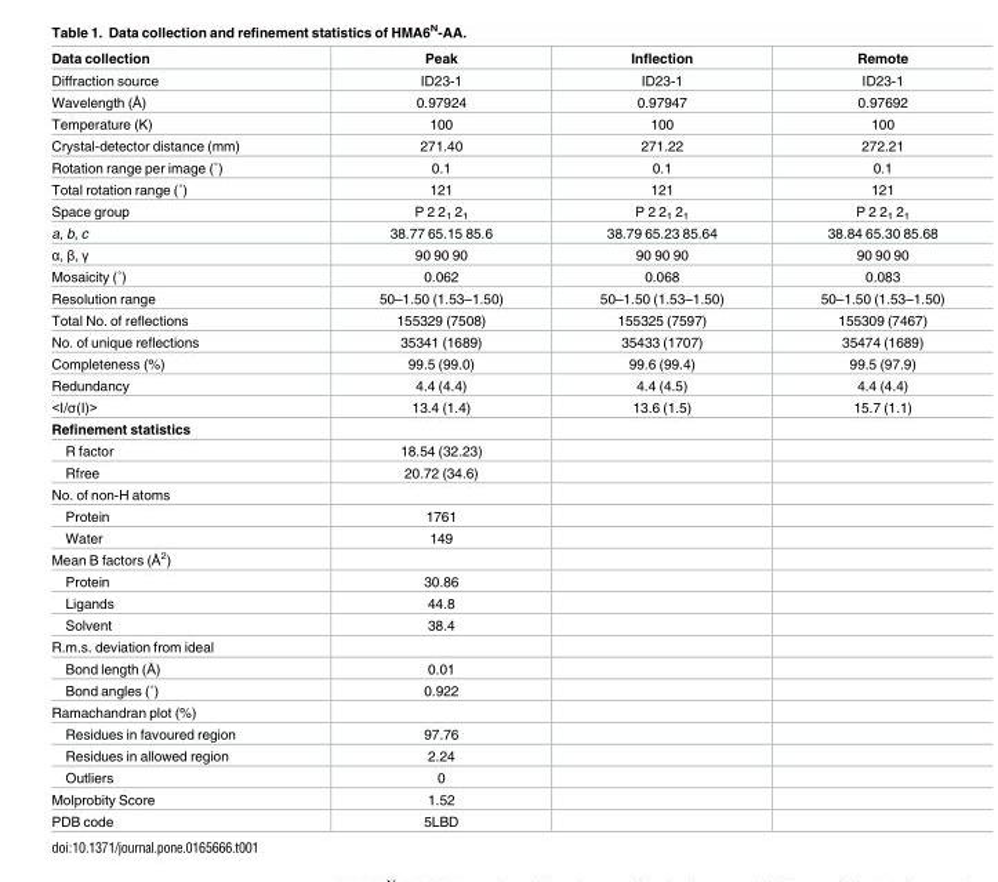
<table><thead><tr><td>Data collection</td><td>Peak</td><td>Inflection</td><td>Remote</td></tr></thead><tbody><tr><td>Diffraction source</td><td>ID23-1</td><td>ID23-1</td><td>ID23-1</td></tr><tr><td>Wavelength (Å)</td><td>0.97924</td><td>0.97947</td><td>0.97692</td></tr><tr><td>Temperature (K)</td><td>100</td><td>100</td><td>100</td></tr><tr><td>Crystal-detector distance (mm)</td><td>271.40</td><td>271.22</td><td>272.21</td></tr><tr><td>Rotation range per image (˚)</td><td>0.1</td><td>0.1</td><td>0.1</td></tr><tr><td>Total rotation range (˚)</td><td>121</td><td>121</td><td>121</td></tr><tr><td>Space group</td><td>P 2 2<sub>1</sub> 2<sub>1</sub></td><td>P 2 2<sub>1</sub> 2<sub>1</sub></td><td>P 2 2<sub>1</sub> 2<sub>1</sub></td></tr><tr><td>a, b, c</td><td>38.77 65.15 85.6</td><td>38.79 65.23 85.64</td><td>38.84 65.30 85.68</td></tr><tr><td>α, β, γ</td><td>90 90 90</td><td>90 90 90</td><td>90 90 90</td></tr><tr><td>Mosaicity (˚)</td><td>0.062</td><td>0.068</td><td>0.083</td></tr><tr><td>Resolution range</td><td>50–1.50 (1.53–1.50)</td><td>50–1.50 (1.53–1.50)</td><td>50–1.50 (1.53–1.50)</td></tr><tr><td>Total No. of reflections</td><td>155329 (7508)</td><td>155325 (7597)</td><td>155309 (7467)</td></tr><tr><td>No. of unique reflections</td><td>35341 (1689)</td><td>35433 (1707)</td><td>35474 (1689)</td></tr><tr><td>Completeness (%)</td><td>99.5 (99.0)</td><td>99.6 (99.4)</td><td>99.5 (97.9)</td></tr><tr><td>Redundancy</td><td>4.4 (4.4)</td><td>4.4 (4.5)</td><td>4.4 (4.4)</td></tr><tr><td>&lt;I/σ(I)&gt;</td><td>13.4 (1.4)</td><td>13.6 (1.5)</td><td>15.7 (1.1)</td></tr><tr><td colspan="4">Refinement statistics</td></tr><tr><td>R factor</td><td>18.54 (32.23)</td><td></td><td></td></tr><tr><td>Rfree</td><td>20.72 (34.6)</td><td></td><td></td></tr><tr><td colspan="4">No. of non-H atoms</td></tr><tr><td>Protein</td><td>1761</td><td></td><td></td></tr><tr><td>Water</td><td>149</td><td></td><td></td></tr><tr><td colspan="4">Mean B factors (Å<sup>2</sup>)</td></tr><tr><td>Protein</td><td>30.86</td><td></td><td></td></tr><tr><td>Ligands</td><td>44.8</td><td></td><td></td></tr><tr><td>Solvent</td><td>38.4</td><td></td><td></td></tr><tr><td colspan="4">R.m.s. deviation from ideal</td></tr><tr><td>Bond length (Å)</td><td>0.01</td><td></td><td></td></tr><tr><td>Bond angles (˚)</td><td>0.922</td><td></td><td></td></tr><tr><td colspan="4">Ramachandran plot (%)</td></tr><tr><td>Residues in favoured region</td><td>97.76</td><td></td><td></td></tr><tr><td>Residues in allowed region</td><td>2.24</td><td></td><td></td></tr><tr><td>Outliers</td><td>0</td><td></td><td></td></tr><tr><td>Molprobity Score</td><td>1.52</td><td></td><td></td></tr><tr><td>PDB code</td><td>5LBD</td><td></td><td></td></tr></tbody></table>